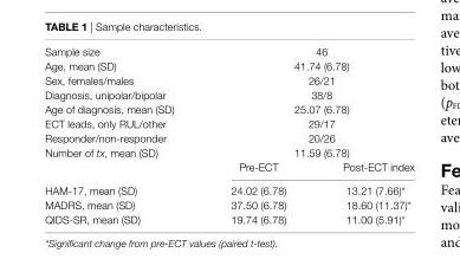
<table><tbody><tr><td>Sample size</td><td colspan="2">46</td></tr><tr><td>Age, mean (SD)</td><td colspan="2">41.74 (6.78)</td></tr><tr><td>Sex, females/males</td><td colspan="2">26/21</td></tr><tr><td>Diagnosis, unipolar/bipolar</td><td colspan="2">38/8</td></tr><tr><td>Age of diagnosis, mean (SD)</td><td colspan="2">25.07 (6.78)</td></tr><tr><td>ECT leads, only RUL/other</td><td colspan="2">29/17</td></tr><tr><td>Responder/non-responder</td><td colspan="2">20/26</td></tr><tr><td rowspan="2">Number of tx, mean (SD)</td><td colspan="2">11.59 (6.78)</td></tr><tr><td>Pre-ECT</td><td>Post-ECT index</td></tr><tr><td>HAM-17, mean (SD)</td><td>24.02 (6.78)</td><td>13.21 (7.66)*</td></tr><tr><td>MADRS, mean (SD)</td><td>37.50 (6.78)</td><td>18.60 (11.37)*</td></tr><tr><td>QIDS-SR, mean (SD)</td><td>19.74 (6.78)</td><td>11.00 (5.91)*</td></tr></tbody></table>